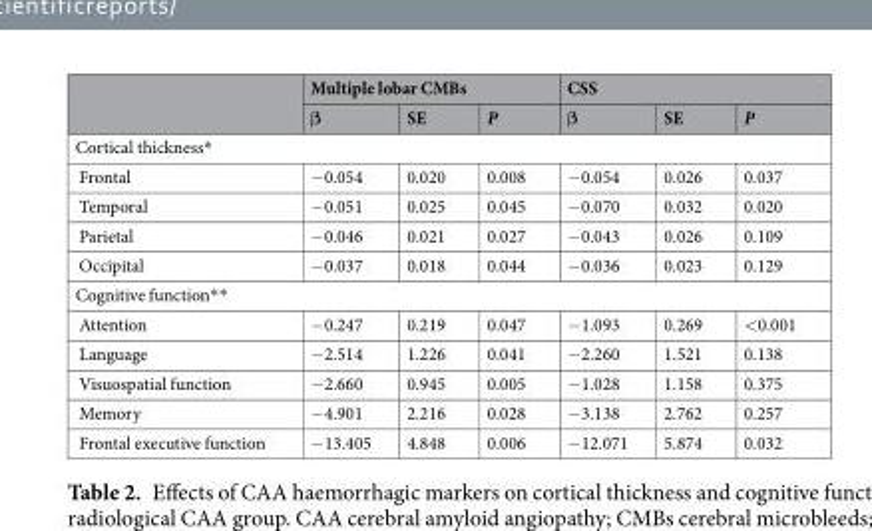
<table><thead><tr><td rowspan="2"></td><td colspan="3">Multiple lobar CMBs</td><td colspan="3">CSS</td></tr><tr><td>β</td><td>SE</td><td>P</td><td>β</td><td>SE</td><td>P</td></tr></thead><tbody><tr><td colspan="7">Cortical thickness*</td></tr><tr><td>Frontal</td><td>−0.054</td><td>0.020</td><td>0.008</td><td>−0.054</td><td>0.026</td><td>0.037</td></tr><tr><td>Temporal</td><td>−0.051</td><td>0.025</td><td>0.045</td><td>−0.070</td><td>0.032</td><td>0.020</td></tr><tr><td>Parietal</td><td>−0.046</td><td>0.021</td><td>0.027</td><td>−0.043</td><td>0.026</td><td>0.109</td></tr><tr><td>Occipital</td><td>−0.037</td><td>0.018</td><td>0.044</td><td>−0.036</td><td>0.023</td><td>0.129</td></tr><tr><td colspan="7">Cognitive function**</td></tr><tr><td>Attention</td><td>−0.247</td><td>0.219</td><td>0.047</td><td>−1.093</td><td>0.269</td><td>&lt;0.001</td></tr><tr><td>Language</td><td>−2.514</td><td>1.226</td><td>0.041</td><td>−2.260</td><td>1.521</td><td>0.138</td></tr><tr><td>Visuospatial function</td><td>−2.660</td><td>0.945</td><td>0.005</td><td>−1.028</td><td>1.158</td><td>0.375</td></tr><tr><td>Memory</td><td>−4.901</td><td>2.216</td><td>0.028</td><td>−3.138</td><td>2.762</td><td>0.257</td></tr><tr><td>Frontal executive function</td><td>−13.405</td><td>4.848</td><td>0.006</td><td>−12.071</td><td>5.874</td><td>0.032</td></tr></tbody></table>